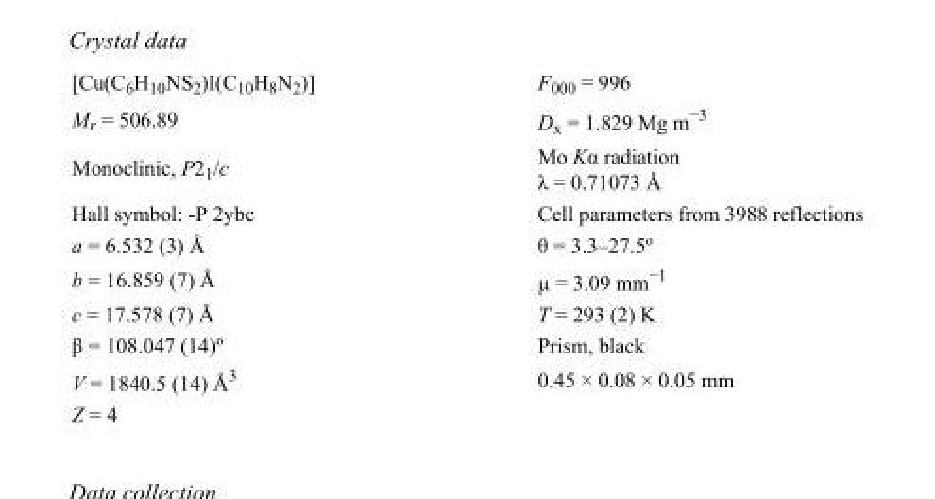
<table><tbody><tr><td>[Cu(C<sub>6</sub>H<sub>10</sub>NS<sub>2</sub>)I(C<sub>10</sub>H<sub>8</sub>N<sub>2</sub>)]</td><td>F000 = 996</td></tr><tr><td>M<sub>r</sub> = 506.89</td><td>D<sub>x</sub> = 1.829 Mg m<sup>−3</sup></td></tr><tr><td>Monoclinic, P2<sub>1</sub>/c</td><td>Mo Kα radiation λ = 0.71073 Å</td></tr><tr><td>Hall symbol: -P 2ybc</td><td>Cell parameters from 3988 reflections</td></tr><tr><td>a = 6.532 (3) Å</td><td>θ = 3.3–27.5º</td></tr><tr><td>b = 16.859 (7) Å</td><td>µ = 3.09 mm<sup>−1</sup></td></tr><tr><td>c = 17.578 (7) Å</td><td>T = 293 (2) K</td></tr><tr><td>β = 108.047 (14)º</td><td>Prism, black</td></tr><tr><td>V = 1840.5 (14) Å<sup>3</sup></td><td>0.45 × 0.08 × 0.05 mm</td></tr><tr><td>Z = 4</td><td></td></tr></tbody></table>